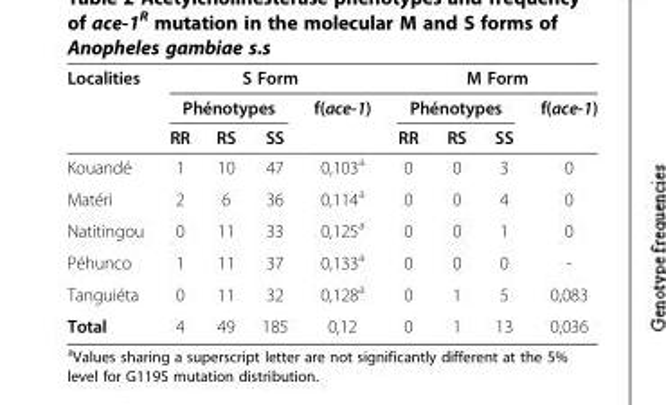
<table><thead><tr><td rowspan="3">Localities</td><td colspan="4">S Form</td><td colspan="4">M Form</td></tr><tr><td colspan="3">Phénotypes</td><td rowspan="2">f(ace-1)</td><td colspan="3">Phénotypes</td><td rowspan="2">f(ace-1)</td></tr><tr><td>RR</td><td>RS</td><td>SS</td><td>RR</td><td>RS</td><td>SS</td></tr></thead><tbody><tr><td>Kouandé</td><td>1</td><td>10</td><td>47</td><td>0,103<sup>a</sup></td><td>0</td><td>0</td><td>3</td><td>0</td></tr><tr><td>Matéri</td><td>2</td><td>6</td><td>36</td><td>0,114<sup>a</sup></td><td>0</td><td>0</td><td>4</td><td>0</td></tr><tr><td>Natitingou</td><td>0</td><td>11</td><td>33</td><td>0,125<sup>a</sup></td><td>0</td><td>0</td><td>1</td><td>0</td></tr><tr><td>Péhunco</td><td>1</td><td>11</td><td>37</td><td>0,133<sup>a</sup></td><td>0</td><td>0</td><td>0</td><td>-</td></tr><tr><td>Tanguiéta</td><td>0</td><td>11</td><td>32</td><td>0,128<sup>a</sup></td><td>0</td><td>1</td><td>5</td><td>0,083</td></tr><tr><td>Total</td><td>4</td><td>49</td><td>185</td><td>0,12</td><td>0</td><td>1</td><td>13</td><td>0,036</td></tr></tbody></table>